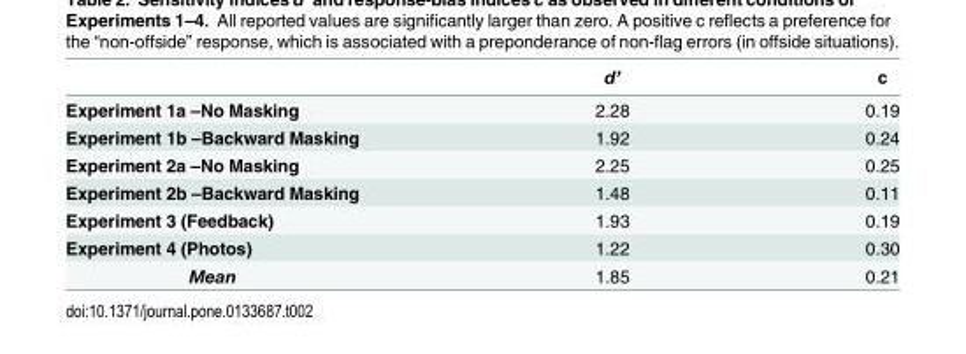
<table><thead><tr><td></td><td>d’</td><td>c</td></tr></thead><tbody><tr><td>Experiment 1a –No Masking</td><td>2.28</td><td>0.19</td></tr><tr><td>Experiment 1b –Backward Masking</td><td>1.92</td><td>0.24</td></tr><tr><td>Experiment 2a –No Masking</td><td>2.25</td><td>0.25</td></tr><tr><td>Experiment 2b –Backward Masking</td><td>1.48</td><td>0.11</td></tr><tr><td>Experiment 3 (Feedback)</td><td>1.93</td><td>0.19</td></tr><tr><td>Experiment 4 (Photos)</td><td>1.22</td><td>0.30</td></tr><tr><td>Mean</td><td>1.85</td><td>0.21</td></tr></tbody></table>